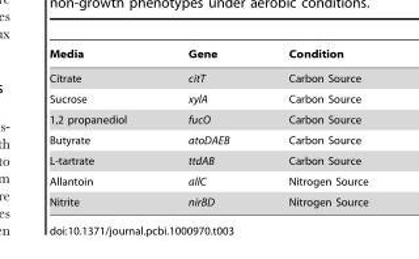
<table><thead><tr><td>Media</td><td>Gene</td><td>Condition</td></tr></thead><tbody><tr><td>Citrate</td><td>citT</td><td>Carbon Source</td></tr><tr><td>Sucrose</td><td>xylA</td><td>Carbon Source</td></tr><tr><td>1,2 propanediol</td><td>fucO</td><td>Carbon Source</td></tr><tr><td>Butyrate</td><td>atoDAEB</td><td>Carbon Source</td></tr><tr><td>L-tartrate</td><td>ttdAB</td><td>Carbon Source</td></tr><tr><td>Allantoin</td><td>allC</td><td>Nitrogen Source</td></tr><tr><td>Nitrite</td><td>nirBD</td><td>Nitrogen Source</td></tr></tbody></table>